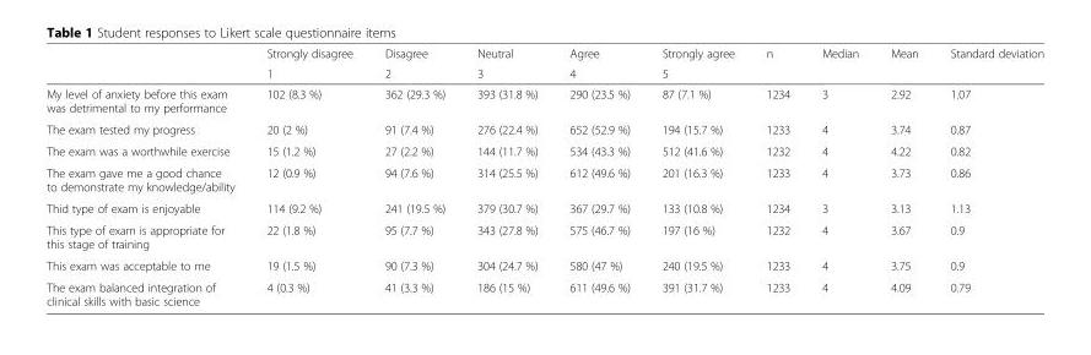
<table><thead><tr><td rowspan="2"></td><td rowspan="2">Strongly disagree 1</td><td rowspan="2">Disagree 2</td><td rowspan="2">Neutral 3</td><td rowspan="2">Agree 4</td><td rowspan="2">Strongly agree 5</td><td rowspan="2">n</td><td rowspan="2">Median</td><td rowspan="2">Mean</td><td rowspan="2">Standard deviation</td></tr><tr></tr></thead><tbody><tr><td>My level of anxiety before this exam was detrimental to my performance</td><td>102 (8.3 %)</td><td>362 (29.3 %)</td><td>393 (31.8 %)</td><td>290 (23.5 %)</td><td>87 (7.1 %)</td><td>1234</td><td>3</td><td>2.92</td><td>1.07</td></tr><tr><td>The exam tested my progress</td><td>20 (2 %)</td><td>91 (7.4 %)</td><td>276 (22.4 %)</td><td>652 (52.9 %)</td><td>194 (15.7 %)</td><td>1233</td><td>4</td><td>3.74</td><td>0.87</td></tr><tr><td>The exam was a worthwhile exercise</td><td>15 (1.2 %)</td><td>27 (2.2 %)</td><td>144 (11.7 %)</td><td>534 (43.3 %)</td><td>512 (41.6 %)</td><td>1232</td><td>4</td><td>4.22</td><td>0.82</td></tr><tr><td>The exam gave me a good chance to demonstrate my knowledge/ability</td><td>12 (0.9 %)</td><td>94 (7.6 %)</td><td>314 (25.5 %)</td><td>612 (49.6 %)</td><td>201 (16.3 %)</td><td>1233</td><td>4</td><td>3.73</td><td>0.86</td></tr><tr><td>Thid type of exam is enjoyable</td><td>114 (9.2 %)</td><td>241 (19.5 %)</td><td>379 (30.7 %)</td><td>367 (29.7 %)</td><td>133 (10.8 %)</td><td>1234</td><td>3</td><td>3.13</td><td>1.13</td></tr><tr><td>This type of exam is appropriate for this stage of training</td><td>22 (1.8 %)</td><td>95 (7.7 %)</td><td>343 (27.8 %)</td><td>575 (46.7 %)</td><td>197 (16 %)</td><td>1232</td><td>4</td><td>3.67</td><td>0.9</td></tr><tr><td>This exam was acceptable to me</td><td>19 (1.5 %)</td><td>90 (7.3 %)</td><td>304 (24.7 %)</td><td>580 (47 %)</td><td>240 (19.5 %)</td><td>1233</td><td>4</td><td>3.75</td><td>0.9</td></tr><tr><td>The exam balanced integration of clinical skills with basic science</td><td>4 (0.3 %)</td><td>41 (3.3 %)</td><td>186 (15 %)</td><td>611 (49.6 %)</td><td>391 (31.7 %)</td><td>1233</td><td>4</td><td>4.09</td><td>0.79</td></tr></tbody></table>